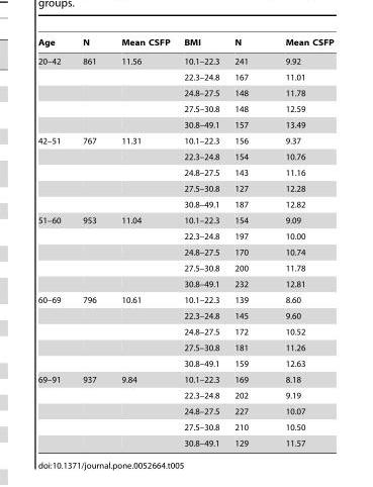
<table><thead><tr><td>Age</td><td>N</td><td>Mean CSFP</td><td>BMI</td><td>N</td><td>Mean CSFP</td></tr></thead><tbody><tr><td rowspan="5">20–42</td><td>861</td><td>11.56</td><td>10.1–22.3</td><td>241</td><td>9.92</td></tr><tr><td></td><td></td><td>22.3–24.8</td><td>167</td><td>11.01</td></tr><tr><td></td><td></td><td>24.8–27.5</td><td>148</td><td>11.78</td></tr><tr><td></td><td></td><td>27.5–30.8</td><td>148</td><td>12.59</td></tr><tr><td></td><td></td><td>30.8–49.1</td><td>157</td><td>13.49</td></tr><tr><td rowspan="5">42–51</td><td>767</td><td>11.31</td><td>10.1–22.3</td><td>156</td><td>9.37</td></tr><tr><td></td><td></td><td>22.3–24.8</td><td>154</td><td>10.76</td></tr><tr><td></td><td></td><td>24.8–27.5</td><td>143</td><td>11.16</td></tr><tr><td></td><td></td><td>27.5–30.8</td><td>127</td><td>12.28</td></tr><tr><td></td><td></td><td>30.8–49.1</td><td>187</td><td>12.82</td></tr><tr><td rowspan="5">51–60</td><td>953</td><td>11.04</td><td>10.1–22.3</td><td>154</td><td>9.09</td></tr><tr><td></td><td></td><td>22.3–24.8</td><td>197</td><td>10.00</td></tr><tr><td></td><td></td><td>24.8–27.5</td><td>170</td><td>10.74</td></tr><tr><td></td><td></td><td>27.5–30.8</td><td>200</td><td>11.78</td></tr><tr><td></td><td></td><td>30.8–49.1</td><td>232</td><td>12.81</td></tr><tr><td rowspan="5">60–69</td><td>796</td><td>10.61</td><td>10.1–22.3</td><td>139</td><td>8.60</td></tr><tr><td></td><td></td><td>22.3–24.8</td><td>145</td><td>9.60</td></tr><tr><td></td><td></td><td>24.8–27.5</td><td>172</td><td>10.52</td></tr><tr><td></td><td></td><td>27.5–30.8</td><td>181</td><td>11.26</td></tr><tr><td></td><td></td><td>30.8–49.1</td><td>159</td><td>12.63</td></tr><tr><td rowspan="5">69–91</td><td>937</td><td>9.84</td><td>10.1–22.3</td><td>169</td><td>8.18</td></tr><tr><td></td><td></td><td>22.3–24.8</td><td>202</td><td>9.19</td></tr><tr><td></td><td></td><td>24.8–27.5</td><td>227</td><td>10.07</td></tr><tr><td></td><td></td><td>27.5–30.8</td><td>210</td><td>10.50</td></tr><tr><td></td><td></td><td>30.8–49.1</td><td>129</td><td>11.57</td></tr></tbody></table>